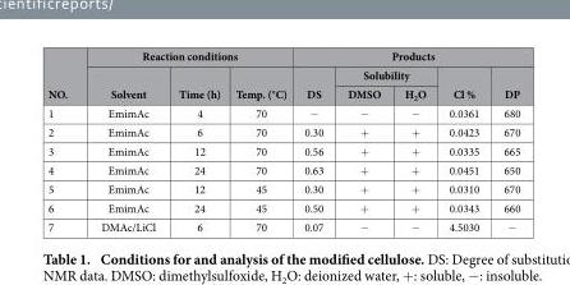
<table><thead><tr><td rowspan="3">NO.</td><td colspan="3">Reaction conditions</td><td colspan="5">Products</td></tr><tr><td rowspan="2">Solvent</td><td rowspan="2">Time (h)</td><td rowspan="2">Temp. (°C)</td><td rowspan="2">DS</td><td colspan="2">Solubility</td><td rowspan="2">Cl %</td><td rowspan="2">DP</td></tr><tr><td>DMSO</td><td>H<sub>2</sub>O</td></tr></thead><tbody><tr><td>1</td><td>EmimAc</td><td>4</td><td>70</td><td>−</td><td>−</td><td>−</td><td>0.0361</td><td>680</td></tr><tr><td>2</td><td>EmimAc</td><td>6</td><td>70</td><td>0.30</td><td>+</td><td>+</td><td>0.0423</td><td>670</td></tr><tr><td>3</td><td>EmimAc</td><td>12</td><td>70</td><td>0.56</td><td>+</td><td>+</td><td>0.0335</td><td>665</td></tr><tr><td>4</td><td>EmimAc</td><td>24</td><td>70</td><td>0.63</td><td>+</td><td>+</td><td>0.0451</td><td>650</td></tr><tr><td>5</td><td>EmimAc</td><td>12</td><td>45</td><td>0.30</td><td>+</td><td>+</td><td>0.0310</td><td>670</td></tr><tr><td>6</td><td>EmimAc</td><td>24</td><td>45</td><td>0.50</td><td>+</td><td>+</td><td>0.0343</td><td>660</td></tr><tr><td>7</td><td>DMAc/LiCl</td><td>6</td><td>70</td><td>0.07</td><td>−</td><td>−</td><td>4.5030</td><td>−</td></tr></tbody></table>